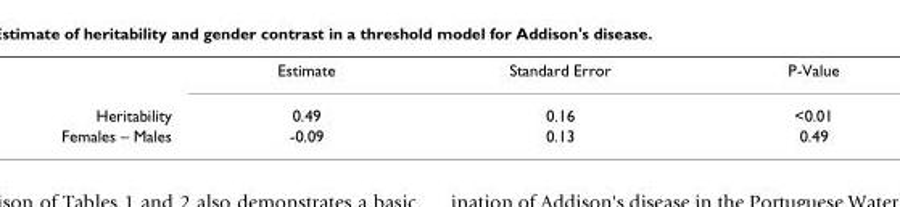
<table><thead><tr><td></td><td>Estimate</td><td>Standard Error</td><td>P-Value</td></tr></thead><tbody><tr><td>Heritability</td><td>0.49</td><td>0.16</td><td>&lt;0.01</td></tr><tr><td>Females – Males</td><td>-0.09</td><td>0.13</td><td>0.49</td></tr></tbody></table>